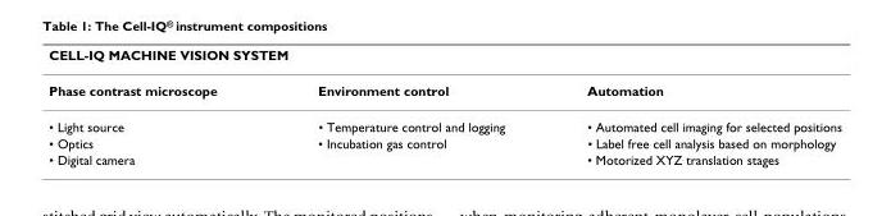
<table><thead><tr><td colspan="3">CELL-IQ MACHINE VISION SYSTEM</td></tr><tr><td>Phase contrast microscope</td><td>Environment control</td><td>Automation</td></tr></thead><tbody><tr><td>• Light source</td><td>• Temperature control and logging</td><td>• Automated cell imaging for selected positions</td></tr><tr><td>• Optics</td><td>• Incubation gas control</td><td>• Label free cell analysis based on morphology</td></tr><tr><td>• Digital camera</td><td></td><td>• Motorized XYZ translation stages</td></tr></tbody></table>